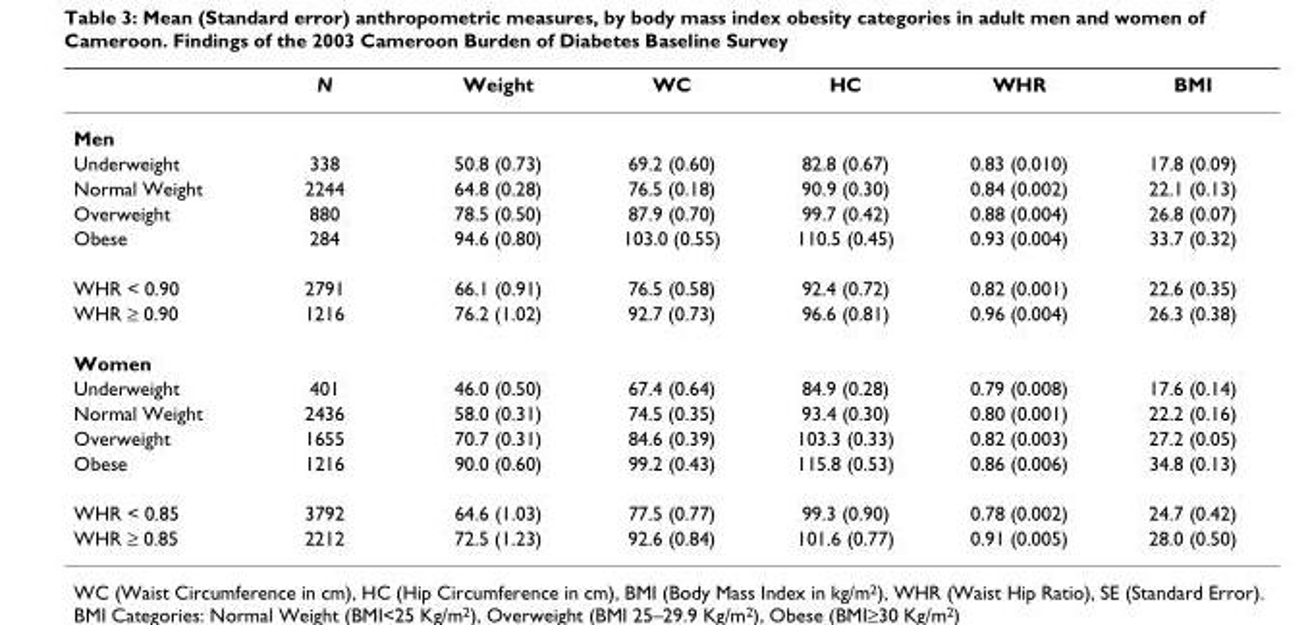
<table><thead><tr><td></td><td>N</td><td>Weight</td><td>WC</td><td>HC</td><td>WHR</td><td>BMI</td></tr></thead><tbody><tr><td colspan="7">Men</td></tr><tr><td>Underweight</td><td>338</td><td>50.8 (0.73)</td><td>69.2 (0.60)</td><td>82.8 (0.67)</td><td>0.83 (0.010)</td><td>17.8 (0.09)</td></tr><tr><td>Normal Weight</td><td>2244</td><td>64.8 (0.28)</td><td>76.5 (0.18)</td><td>90.9 (0.30)</td><td>0.84 (0.002)</td><td>22.1 (0.13)</td></tr><tr><td>Overweight</td><td>880</td><td>78.5 (0.50)</td><td>87.9 (0.70)</td><td>99.7 (0.42)</td><td>0.88 (0.004)</td><td>26.8 (0.07)</td></tr><tr><td>Obese</td><td>284</td><td>94.6 (0.80)</td><td>103.0 (0.55)</td><td>110.5 (0.45)</td><td>0.93 (0.004)</td><td>33.7 (0.32)</td></tr><tr><td>WHR &lt; 0.90</td><td>2791</td><td>66.1 (0.91)</td><td>76.5 (0.58)</td><td>92.4 (0.72)</td><td>0.82 (0.001)</td><td>22.6 (0.35)</td></tr><tr><td>WHR ≥ 0.90</td><td>1216</td><td>76.2 (1.02)</td><td>92.7 (0.73)</td><td>96.6 (0.81)</td><td>0.96 (0.004)</td><td>26.3 (0.38)</td></tr><tr><td colspan="7">Women</td></tr><tr><td>Underweight</td><td>401</td><td>46.0 (0.50)</td><td>67.4 (0.64)</td><td>84.9 (0.28)</td><td>0.79 (0.008)</td><td>17.6 (0.14)</td></tr><tr><td>Normal Weight</td><td>2436</td><td>58.0 (0.31)</td><td>74.5 (0.35)</td><td>93.4 (0.30)</td><td>0.80 (0.001)</td><td>22.2 (0.16)</td></tr><tr><td>Overweight</td><td>1655</td><td>70.7 (0.31)</td><td>84.6 (0.39)</td><td>103.3 (0.33)</td><td>0.82 (0.003)</td><td>27.2 (0.05)</td></tr><tr><td>Obese</td><td>1216</td><td>90.0 (0.60)</td><td>99.2 (0.43)</td><td>115.8 (0.53)</td><td>0.86 (0.006)</td><td>34.8 (0.13)</td></tr><tr><td>WHR &lt; 0.85</td><td>3792</td><td>64.6 (1.03)</td><td>77.5 (0.77)</td><td>99.3 (0.90)</td><td>0.78 (0.002)</td><td>24.7 (0.42)</td></tr><tr><td>WHR ≥ 0.85</td><td>2212</td><td>72.5 (1.23)</td><td>92.6 (0.84)</td><td>101.6 (0.77)</td><td>0.91 (0.005)</td><td>28.0 (0.50)</td></tr></tbody></table>